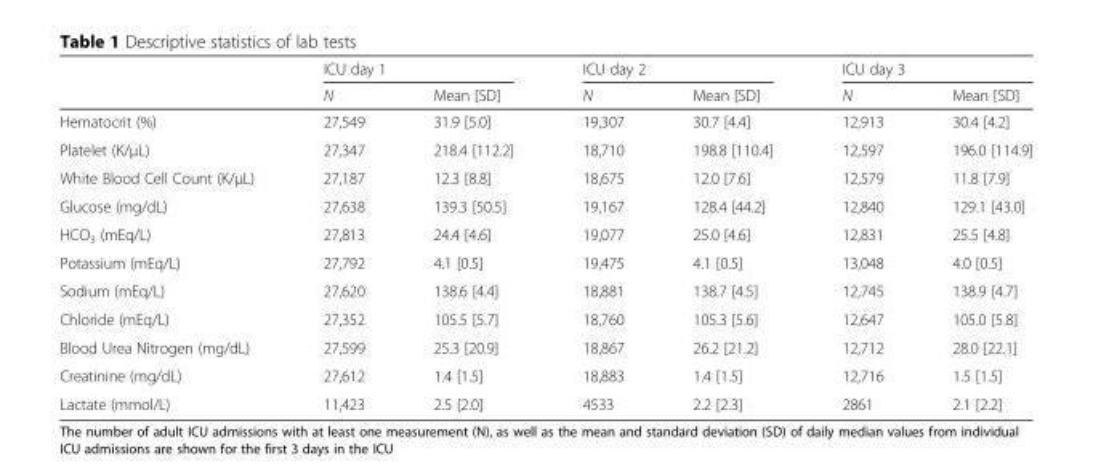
<table><thead><tr><td rowspan="2"></td><td colspan="2">ICU day 1</td><td colspan="2">ICU day 2</td><td colspan="2">ICU day 3</td></tr><tr><td>N</td><td>Mean [SD]</td><td>N</td><td>Mean [SD]</td><td>N</td><td>Mean [SD]</td></tr></thead><tbody><tr><td>Hematocrit (%)</td><td>27,549</td><td>31.9 [5.0]</td><td>19,307</td><td>30.7 [4.4]</td><td>12,913</td><td>30.4 [4.2]</td></tr><tr><td>Platelet (K/μL)</td><td>27,347</td><td>218.4 [112.2]</td><td>18,710</td><td>198.8 [110.4]</td><td>12,597</td><td>196.0 [114.9]</td></tr><tr><td>White Blood Cell Count (K/μL)</td><td>27,187</td><td>12.3 [8.8]</td><td>18,675</td><td>12.0 [7.6]</td><td>12,579</td><td>11.8 [7.9]</td></tr><tr><td>Glucose (mg/dL)</td><td>27,638</td><td>139.3 [50.5]</td><td>19,167</td><td>128.4 [44.2]</td><td>12,840</td><td>129.1 [43.0]</td></tr><tr><td>HCO<sub>3</sub> (mEq/L)</td><td>27,813</td><td>24.4 [4.6]</td><td>19,077</td><td>25.0 [4.6]</td><td>12,831</td><td>25.5 [4.8]</td></tr><tr><td>Potassium (mEq/L)</td><td>27,792</td><td>4.1 [0.5]</td><td>19,475</td><td>4.1 [0.5]</td><td>13,048</td><td>4.0 [0.5]</td></tr><tr><td>Sodium (mEq/L)</td><td>27,620</td><td>138.6 [4.4]</td><td>18,881</td><td>138.7 [4.5]</td><td>12,745</td><td>138.9 [4.7]</td></tr><tr><td>Chloride (mEq/L)</td><td>27,352</td><td>105.5 [5.7]</td><td>18,760</td><td>105.3 [5.6]</td><td>12,647</td><td>105.0 [5.8]</td></tr><tr><td>Blood Urea Nitrogen (mg/dL)</td><td>27,599</td><td>25.3 [20.9]</td><td>18,867</td><td>26.2 [21.2]</td><td>12,712</td><td>28.0 [22.1]</td></tr><tr><td>Creatinine (mg/dL)</td><td>27,612</td><td>1.4 [1.5]</td><td>18,883</td><td>1.4 [1.5]</td><td>12,716</td><td>1.5 [1.5]</td></tr><tr><td>Lactate (mmol/L)</td><td>11,423</td><td>2.5 [2.0]</td><td>4533</td><td>2.2 [2.3]</td><td>2861</td><td>2.1 [2.2]</td></tr></tbody></table>